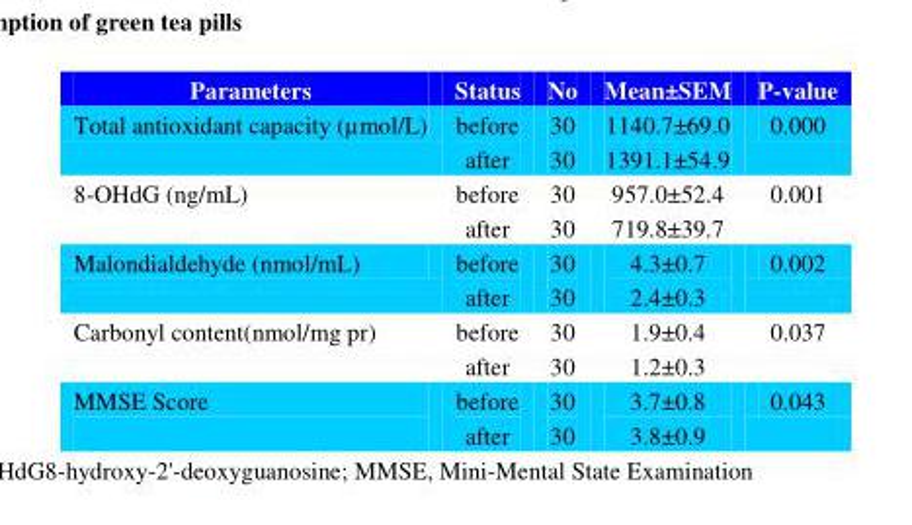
<table><thead><tr><td>Parameters</td><td>Status</td><td>No</td><td>Mean±SEM</td><td>P-value</td></tr></thead><tbody><tr><td>Total antioxidant capacity (µmol/L)</td><td>before after</td><td>30 30</td><td>1140.7±69.0 1391.1±54.9</td><td>0.000</td></tr><tr><td>8-OHdG (ng/mL)</td><td>before after</td><td>30 30</td><td>957.0±52.4 719.8±39.7</td><td>0.001</td></tr><tr><td>Malondialdehyde (nmol/mL)</td><td>before after</td><td>30 30</td><td>4.3±0.7 2.4±0.3</td><td>0.002</td></tr><tr><td>Carbonyl content(nmol/mg pr)</td><td>before after</td><td>30 30</td><td>1.9±0.4 1.2±0.3</td><td>0.037</td></tr><tr><td>MMSE Score</td><td>before after</td><td>30 30</td><td>3.7±0.8 3.8±0.9</td><td>0.043</td></tr></tbody></table>